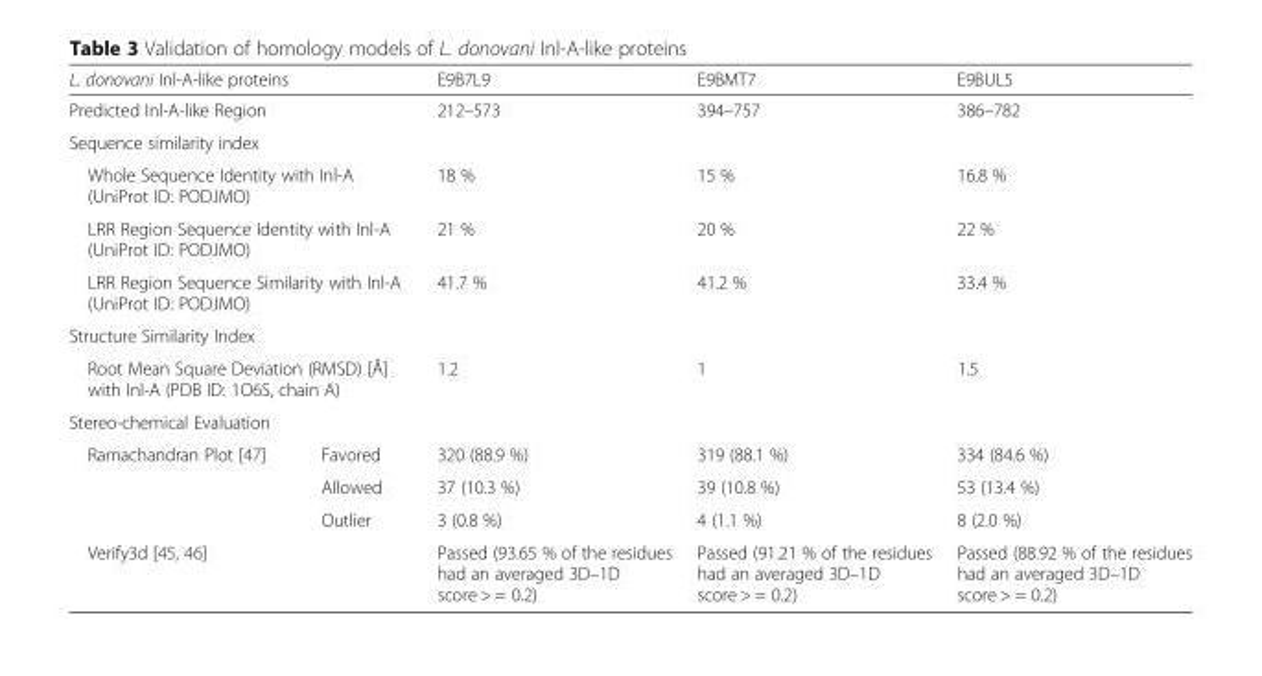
<table><thead><tr><td colspan="2">L. donovani Inl-A-like proteins</td><td>E9B7L9</td><td>E9BMT7</td><td>E9BUL5</td></tr></thead><tbody><tr><td colspan="2">Predicted Inl-A-like Region</td><td>212–573</td><td>394–757</td><td>386–782</td></tr><tr><td colspan="5">Sequence similarity index</td></tr><tr><td colspan="2">Whole Sequence Identity with Inl-A (UniProt ID: PODJMO)</td><td>18 %</td><td>15 %</td><td>16.8 %</td></tr><tr><td colspan="2">LRR Region Sequence Identity with Inl-A (UniProt ID: PODJMO)</td><td>21 %</td><td>20 %</td><td>22 %</td></tr><tr><td colspan="2">LRR Region Sequence Similarity with Inl-A (UniProt ID: PODJMO)</td><td>41.7 %</td><td>41.2 %</td><td>33.4 %</td></tr><tr><td colspan="5">Structure Similarity Index</td></tr><tr><td colspan="2">Root Mean Square Deviation (RMSD) [Å] with Inl-A (PDB ID: 1O6S, chain A)</td><td>1.2</td><td>1</td><td>1.5</td></tr><tr><td colspan="5">Stereo-chemical Evaluation</td></tr><tr><td rowspan="3">Ramachandran Plot [47]</td><td>Favored</td><td>320 (88.9 %)</td><td>319 (88.1 %)</td><td>334 (84.6 %)</td></tr><tr><td>Allowed</td><td>37 (10.3 %)</td><td>39 (10.8 %)</td><td>53 (13.4 %)</td></tr><tr><td>Outlier</td><td>3 (0.8 %)</td><td>4 (1.1 %)</td><td>8 (2.0 %)</td></tr><tr><td colspan="2">Verify3d [45, 46]</td><td>Passed (93.65 % of the residues had an averaged 3D–1D score &gt; = 0.2)</td><td>Passed (91.21 % of the residues had an averaged 3D–1D score &gt; = 0.2)</td><td>Passed (88.92 % of the residues had an averaged 3D–1D score &gt; = 0.2)</td></tr></tbody></table>